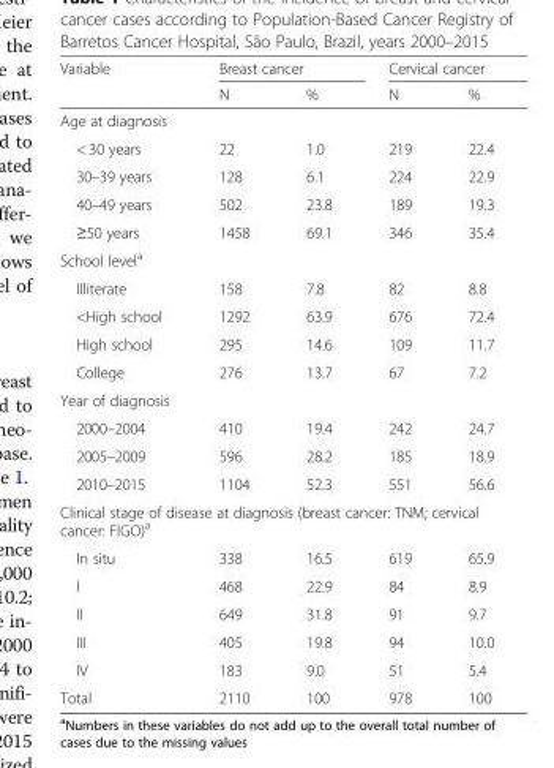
<table><thead><tr><td rowspan="2">Variable</td><td colspan="2">Breast cancer</td><td colspan="2">Cervical cancer</td></tr><tr><td>N</td><td>%</td><td>N</td><td>%</td></tr></thead><tbody><tr><td colspan="5">Age at diagnosis</td></tr><tr><td>&lt; 30 years</td><td>22</td><td>1.0</td><td>219</td><td>22.4</td></tr><tr><td>30–39 years</td><td>128</td><td>6.1</td><td>224</td><td>22.9</td></tr><tr><td>40–49 years</td><td>502</td><td>23.8</td><td>189</td><td>19.3</td></tr><tr><td>≥50 years</td><td>1458</td><td>69.1</td><td>346</td><td>35.4</td></tr><tr><td colspan="5">School level<sup>a</sup></td></tr><tr><td>Illiterate</td><td>158</td><td>7.8</td><td>82</td><td>8.8</td></tr><tr><td>&lt;High school</td><td>1292</td><td>63.9</td><td>676</td><td>72.4</td></tr><tr><td>High school</td><td>295</td><td>14.6</td><td>109</td><td>11.7</td></tr><tr><td>College</td><td>276</td><td>13.7</td><td>67</td><td>7.2</td></tr><tr><td colspan="5">Year of diagnosis</td></tr><tr><td>2000–2004</td><td>410</td><td>19.4</td><td>242</td><td>24.7</td></tr><tr><td>2005–2009</td><td>596</td><td>28.2</td><td>185</td><td>18.9</td></tr><tr><td>2010–2015</td><td>1104</td><td>52.3</td><td>551</td><td>56.6</td></tr><tr><td colspan="5">Clinical stage of disease at diagnosis (breast cancer: TNM; cervical cancer: FIGO)<sup>a</sup></td></tr><tr><td>In situ</td><td>338</td><td>16.5</td><td>619</td><td>65.9</td></tr><tr><td>I</td><td>468</td><td>22.9</td><td>84</td><td>8.9</td></tr><tr><td>II</td><td>649</td><td>31.8</td><td>91</td><td>9.7</td></tr><tr><td>III</td><td>405</td><td>19.8</td><td>94</td><td>10.0</td></tr><tr><td>IV</td><td>183</td><td>9.0</td><td>51</td><td>5.4</td></tr><tr><td>Total</td><td>2110</td><td>100</td><td>978</td><td>100</td></tr></tbody></table>